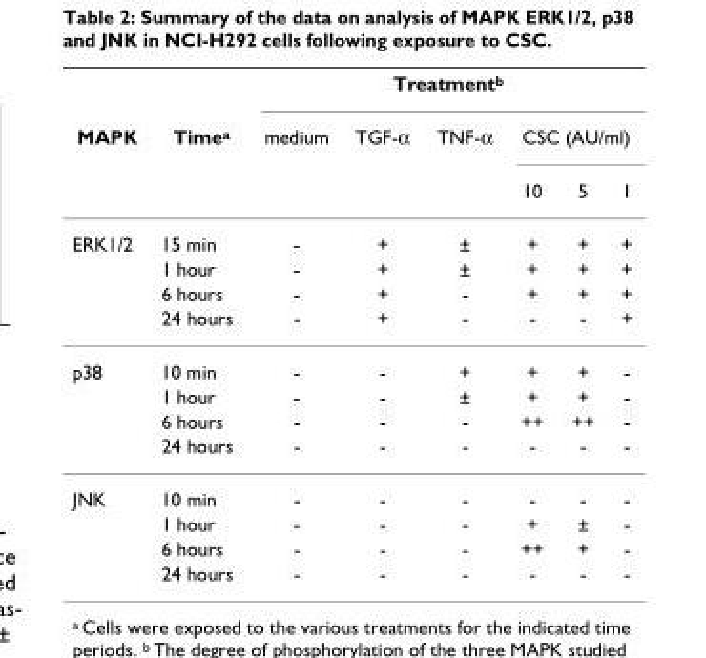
<table><thead><tr><td rowspan="3">MAPK</td><td rowspan="3">Time<sup>a</sup></td><td colspan="6">Treatment<sup>b</sup></td></tr><tr><td rowspan="2">medium</td><td rowspan="2">TGF-α</td><td rowspan="2">TNF-α</td><td colspan="3">CSC (AU/ml)</td></tr><tr><td>10</td><td>5</td><td>1</td></tr></thead><tbody><tr><td rowspan="4">ERK1/2</td><td>15 min</td><td>-</td><td>+</td><td>±</td><td>+</td><td>+</td><td>+</td></tr><tr><td>1 hour</td><td>-</td><td>+</td><td>±</td><td>+</td><td>+</td><td>+</td></tr><tr><td>6 hours</td><td>-</td><td>+</td><td>-</td><td>+</td><td>+</td><td>+</td></tr><tr><td>24 hours</td><td>-</td><td>+</td><td>-</td><td>-</td><td>-</td><td>+</td></tr><tr><td rowspan="4">p38</td><td>10 min</td><td>-</td><td>-</td><td>+</td><td>+</td><td>+</td><td>-</td></tr><tr><td>1 hour</td><td>-</td><td>-</td><td>±</td><td>+</td><td>+</td><td>-</td></tr><tr><td>6 hours</td><td>-</td><td>-</td><td>-</td><td>++</td><td>++</td><td>-</td></tr><tr><td>24 hours</td><td>-</td><td>-</td><td>-</td><td>-</td><td>-</td><td>-</td></tr><tr><td rowspan="4">JNK</td><td>10 min</td><td>-</td><td>-</td><td>-</td><td>-</td><td>-</td><td>-</td></tr><tr><td>1 hour</td><td>-</td><td>-</td><td>-</td><td>+</td><td>±</td><td>-</td></tr><tr><td>6 hours</td><td>-</td><td>-</td><td>-</td><td>++</td><td>+</td><td>-</td></tr><tr><td>24 hours</td><td>-</td><td>-</td><td>-</td><td>-</td><td>-</td><td>-</td></tr></tbody></table>